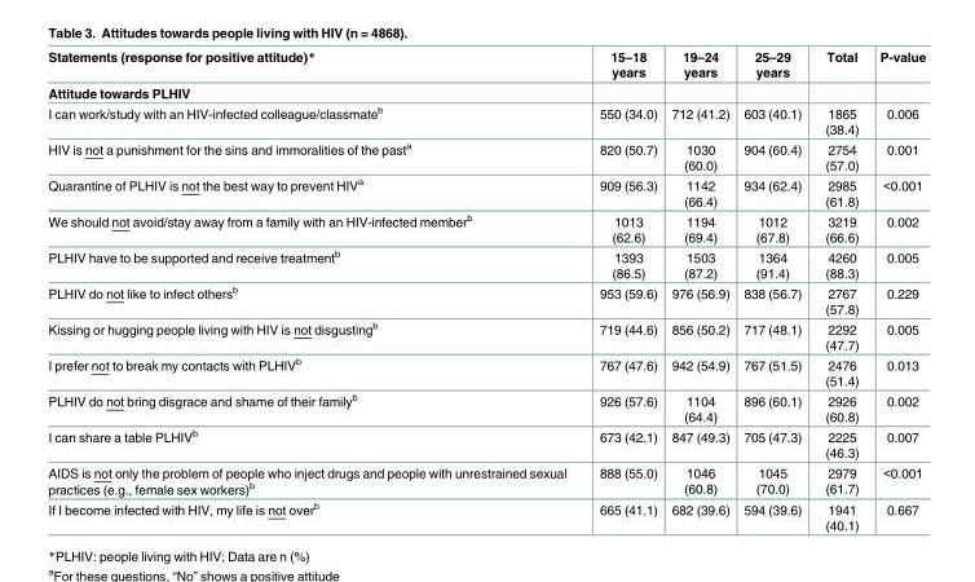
<table><thead><tr><td>Statements (response for positive attitude)*</td><td>15–18 years</td><td>19–24 years</td><td>25–29 years</td><td>Total</td><td>P-value</td></tr></thead><tbody><tr><td colspan="6">Attitude towards PLHIV</td></tr><tr><td>I can work/study with an HIV-infected colleague/classmate<sup>b</sup></td><td>550 (34.0)</td><td>712 (41.2)</td><td>603 (40.1)</td><td>1865 (38.4)</td><td>0.006</td></tr><tr><td>HIV is not a punishment for the sins and immoralities of the past<sup>a</sup></td><td>820 (50.7)</td><td>1030 (60.0)</td><td>904 (60.4)</td><td>2754 (57.0)</td><td>0.001</td></tr><tr><td>Quarantine of PLHIV is not the best way to prevent HIV<sup>a</sup></td><td>909 (56.3)</td><td>1142 (66.4)</td><td>934 (62.4)</td><td>2985 (61.8)</td><td>&lt;0.001</td></tr><tr><td>We should not avoid/stay away from a family with an HIV-infected member<sup>b</sup></td><td>1013 (62.6)</td><td>1194 (69.4)</td><td>1012 (67.8)</td><td>3219 (66.6)</td><td>0.002</td></tr><tr><td>PLHIV have to be supported and receive treatment<sup>b</sup></td><td>1393 (86.5)</td><td>1503 (87.2)</td><td>1364 (91.4)</td><td>4260 (88.3)</td><td>0.005</td></tr><tr><td>PLHIV do not like to infect others<sup>b</sup></td><td>953 (59.6)</td><td>976 (56.9)</td><td>838 (56.7)</td><td>2767 (57.8)</td><td>0.229</td></tr><tr><td>Kissing or hugging people living with HIV is not disgusting<sup>b</sup></td><td>719 (44.6)</td><td>856 (50.2)</td><td>717 (48.1)</td><td>2292 (47.7)</td><td>0.005</td></tr><tr><td>I prefer not to break my contacts with PLHIV<sup>b</sup></td><td>767 (47.6)</td><td>942 (54.9)</td><td>767 (51.5)</td><td>2476 (51.4)</td><td>0.013</td></tr><tr><td>PLHIV do not bring disgrace and shame of their family<sup>b</sup></td><td>926 (57.6)</td><td>1104 (64.4)</td><td>896 (60.1)</td><td>2926 (60.8)</td><td>0.002</td></tr><tr><td>I can share a table PLHIV<sup>b</sup></td><td>673 (42.1)</td><td>847 (49.3)</td><td>705 (47.3)</td><td>2225 (46.3)</td><td>0.007</td></tr><tr><td>AIDS is not only the problem of people who inject drugs and people with unrestrained sexual practices (e.g., female sex workers)<sup>b</sup></td><td>888 (55.0)</td><td>1046 (60.8)</td><td>1045 (70.0)</td><td>2979 (61.7)</td><td>&lt;0.001</td></tr><tr><td>If I become infected with HIV, my life is not over<sup>b</sup></td><td>665 (41.1)</td><td>682 (39.6)</td><td>594 (39.6)</td><td>1941 (40.1)</td><td>0.667</td></tr></tbody></table>